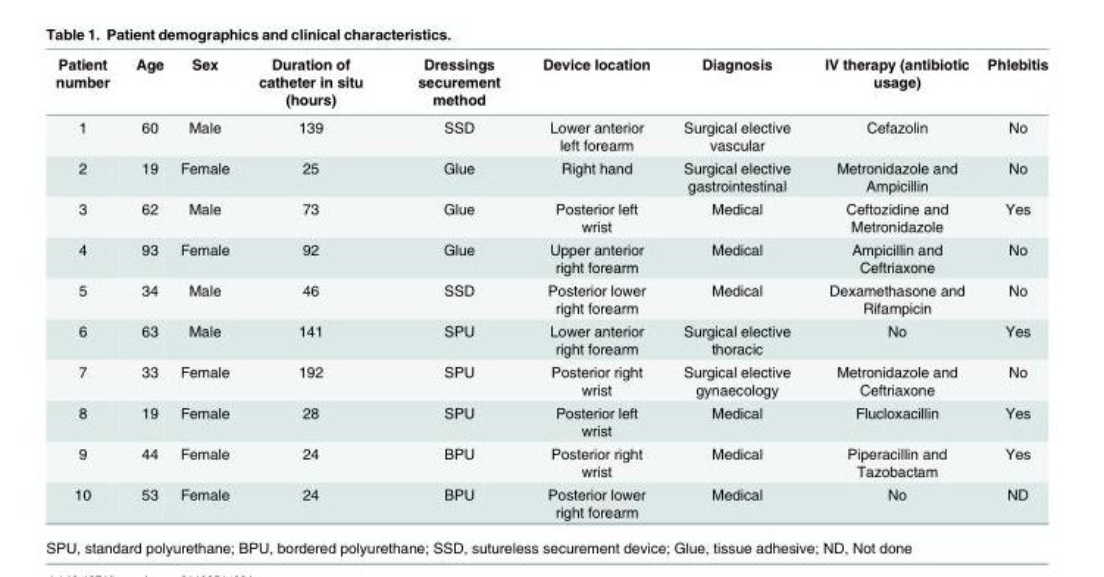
<table><thead><tr><td>Patient number</td><td>Age</td><td>Sex</td><td>Duration of catheter in situ (hours)</td><td>Dressings securement method</td><td>Device location</td><td>Diagnosis</td><td>IV therapy (antibiotic usage)</td><td>Phlebitis</td></tr></thead><tbody><tr><td>1</td><td>60</td><td>Male</td><td>139</td><td>SSD</td><td>Lower anterior left forearm</td><td>Surgical elective vascular</td><td>Cefazolin</td><td>No</td></tr><tr><td>2</td><td>19</td><td>Female</td><td>25</td><td>Glue</td><td>Right hand</td><td>Surgical elective gastrointestinal</td><td>Metronidazole and Ampicillin</td><td>No</td></tr><tr><td>3</td><td>62</td><td>Male</td><td>73</td><td>Glue</td><td>Posterior left wrist</td><td>Medical</td><td>Ceftozidine and Metronidazole</td><td>Yes</td></tr><tr><td>4</td><td>93</td><td>Female</td><td>92</td><td>Glue</td><td>Upper anterior right forearm</td><td>Medical</td><td>Ampicillin and Ceftriaxone</td><td>No</td></tr><tr><td>5</td><td>34</td><td>Male</td><td>46</td><td>SSD</td><td>Posterior lower right forearm</td><td>Medical</td><td>Dexamethasone and Rifampicin</td><td>No</td></tr><tr><td>6</td><td>63</td><td>Male</td><td>141</td><td>SPU</td><td>Lower anterior right forearm</td><td>Surgical elective thoracic</td><td>No</td><td>Yes</td></tr><tr><td>7</td><td>33</td><td>Female</td><td>192</td><td>SPU</td><td>Posterior right wrist</td><td>Surgical elective gynaecology</td><td>Metronidazole and Ceftriaxone</td><td>No</td></tr><tr><td>8</td><td>19</td><td>Female</td><td>28</td><td>SPU</td><td>Posterior left wrist</td><td>Medical</td><td>Flucloxacillin</td><td>Yes</td></tr><tr><td>9</td><td>44</td><td>Female</td><td>24</td><td>BPU</td><td>Posterior right wrist</td><td>Medical</td><td>Piperacillin and Tazobactam</td><td>Yes</td></tr><tr><td>10</td><td>53</td><td>Female</td><td>24</td><td>BPU</td><td>Posterior lower right forearm</td><td>Medical</td><td>No</td><td>ND</td></tr></tbody></table>